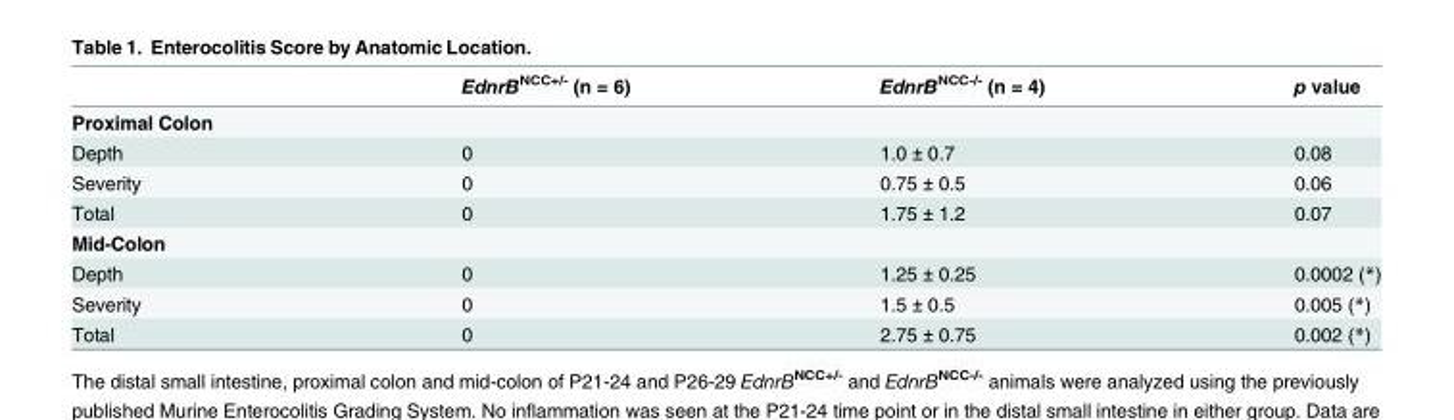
<table><thead><tr><td></td><td>EdnrB<sup>NCC+/-</sup> (n = 6)</td><td>EdnrB<sup>NCC-/-</sup> (n = 4)</td><td>p value</td></tr></thead><tbody><tr><td colspan="4">Proximal Colon</td></tr><tr><td>Depth</td><td>0</td><td>1.0 ± 0.7</td><td>0.08</td></tr><tr><td>Severity</td><td>0</td><td>0.75 ± 0.5</td><td>0.06</td></tr><tr><td>Total</td><td>0</td><td>1.75 ± 1.2</td><td>0.07</td></tr><tr><td colspan="4">Mid-Colon</td></tr><tr><td>Depth</td><td>0</td><td>1.25 ± 0.25</td><td>0.0002 (*)</td></tr><tr><td>Severity</td><td>0</td><td>1.5 ± 0.5</td><td>0.005 (*)</td></tr><tr><td>Total</td><td>0</td><td>2.75 ± 0.75</td><td>0.002 (*)</td></tr></tbody></table>